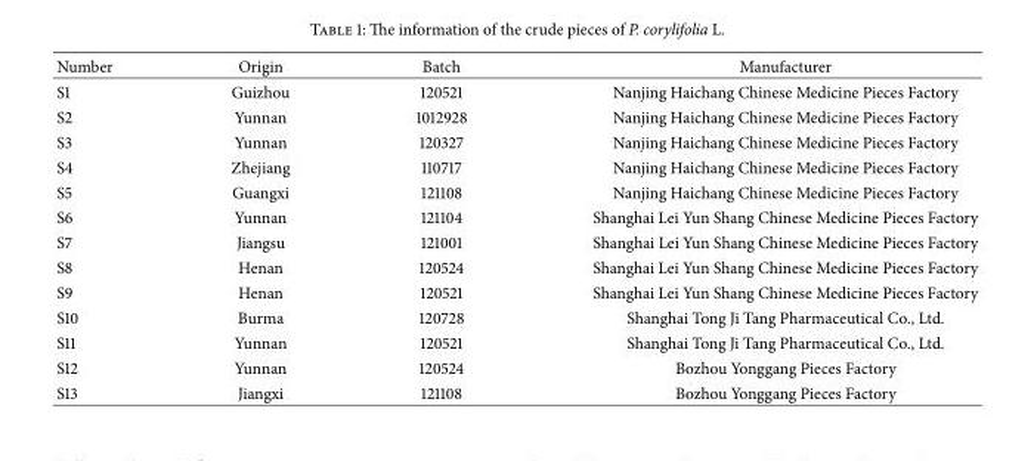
<table><thead><tr><td>Number</td><td>Origin</td><td>Batch</td><td>Manufacturer</td></tr></thead><tbody><tr><td>S1</td><td>Guizhou</td><td>120521</td><td>Nanjing Haichang Chinese Medicine Pieces Factory</td></tr><tr><td>S2</td><td>Yunnan</td><td>1012928</td><td>Nanjing Haichang Chinese Medicine Pieces Factory</td></tr><tr><td>S3</td><td>Yunnan</td><td>120327</td><td>Nanjing Haichang Chinese Medicine Pieces Factory</td></tr><tr><td>S4</td><td>Zhejiang</td><td>110717</td><td>Nanjing Haichang Chinese Medicine Pieces Factory</td></tr><tr><td>S5</td><td>Guangxi</td><td>121108</td><td>Nanjing Haichang Chinese Medicine Pieces Factory</td></tr><tr><td>S6</td><td>Yunnan</td><td>121104</td><td>Shanghai Lei Yun Shang Chinese Medicine Pieces Factory</td></tr><tr><td>S7</td><td>Jiangsu</td><td>121001</td><td>Shanghai Lei Yun Shang Chinese Medicine Pieces Factory</td></tr><tr><td>S8</td><td>Henan</td><td>120524</td><td>Shanghai Lei Yun Shang Chinese Medicine Pieces Factory</td></tr><tr><td>S9</td><td>Henan</td><td>120521</td><td>Shanghai Lei Yun Shang Chinese Medicine Pieces Factory</td></tr><tr><td>S10</td><td>Burma</td><td>120728</td><td>Shanghai Tong Ji Tang Pharmaceutical Co., Ltd.</td></tr><tr><td>S11</td><td>Yunnan</td><td>120521</td><td>Shanghai Tong Ji Tang Pharmaceutical Co., Ltd.</td></tr><tr><td>S12</td><td>Yunnan</td><td>120524</td><td>Bozhou Yonggang Pieces Factory</td></tr><tr><td>S13</td><td>Jiangxi</td><td>121108</td><td>Bozhou Yonggang Pieces Factory</td></tr></tbody></table>